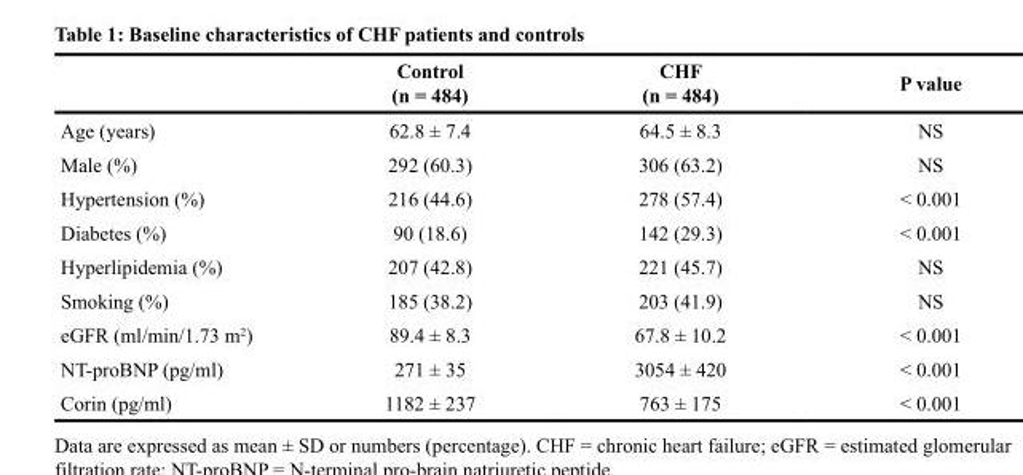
<table><thead><tr><td></td><td>Control (n = 484)</td><td>CHF (n = 484)</td><td>P value</td></tr></thead><tbody><tr><td>Age (years)</td><td>62.8 ± 7.4</td><td>64.5 ± 8.3</td><td>NS</td></tr><tr><td>Male (%)</td><td>292 (60.3)</td><td>306 (63.2)</td><td>NS</td></tr><tr><td>Hypertension (%)</td><td>216 (44.6)</td><td>278 (57.4)</td><td>&lt; 0.001</td></tr><tr><td>Diabetes (%)</td><td>90 (18.6)</td><td>142 (29.3)</td><td>&lt; 0.001</td></tr><tr><td>Hyperlipidemia (%)</td><td>207 (42.8)</td><td>221 (45.7)</td><td>NS</td></tr><tr><td>Smoking (%)</td><td>185 (38.2)</td><td>203 (41.9)</td><td>NS</td></tr><tr><td>eGFR (ml/min/1.73 m<sup>2</sup>)</td><td>89.4 ± 8.3</td><td>67.8 ± 10.2</td><td>&lt; 0.001</td></tr><tr><td>NT-proBNP (pg/ml)</td><td>271 ± 35</td><td>3054 ± 420</td><td>&lt; 0.001</td></tr><tr><td>Corin (pg/ml)</td><td>1182 ± 237</td><td>763 ± 175</td><td>&lt; 0.001</td></tr></tbody></table>